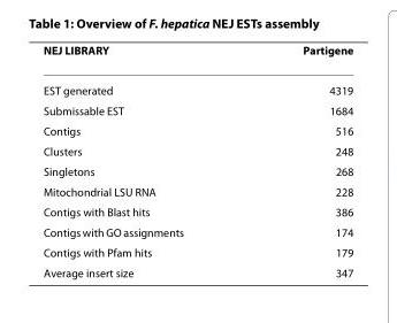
<table><thead><tr><td>NEJ LIBRARY</td><td>Partigene</td></tr></thead><tbody><tr><td>EST generated</td><td>4319</td></tr><tr><td>Submissable EST</td><td>1684</td></tr><tr><td>Contigs</td><td>516</td></tr><tr><td>Clusters</td><td>248</td></tr><tr><td>Singletons</td><td>268</td></tr><tr><td>Mitochondrial LSU RNA</td><td>228</td></tr><tr><td>Contigs with Blast hits</td><td>386</td></tr><tr><td>Contigs with GO assignments</td><td>174</td></tr><tr><td>Contigs with Pfam hits</td><td>179</td></tr><tr><td>Average insert size</td><td>347</td></tr></tbody></table>